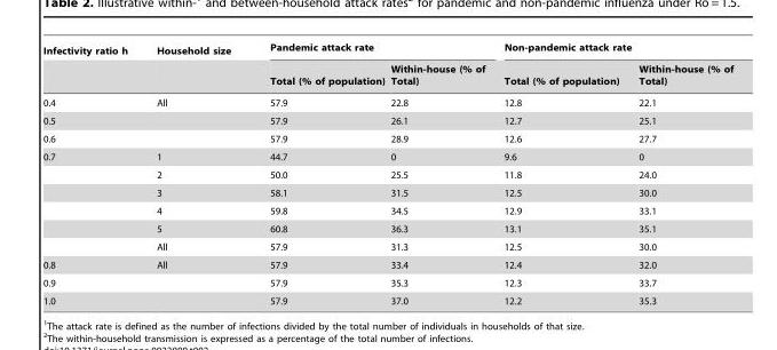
<table><thead><tr><td rowspan="2">Infectivity ratio h</td><td rowspan="2">Household size</td><td colspan="2">Pandemic attack rate</td><td colspan="2">Non-pandemic attack rate</td></tr><tr><td>Total (% of population)</td><td>Within-house (% of Total)</td><td>Total (% of population)</td><td>Within-house (% of Total)</td></tr></thead><tbody><tr><td>0.4</td><td>All</td><td>57.9</td><td>22.8</td><td>12.8</td><td>22.1</td></tr><tr><td>0.5</td><td></td><td>57.9</td><td>26.1</td><td>12.7</td><td>25.1</td></tr><tr><td>0.6</td><td></td><td>57.9</td><td>28.9</td><td>12.6</td><td>27.7</td></tr><tr><td rowspan="6">0.7</td><td>1</td><td>44.7</td><td>0</td><td>9.6</td><td>0</td></tr><tr><td>2</td><td>50.0</td><td>25.5</td><td>11.8</td><td>24.0</td></tr><tr><td>3</td><td>58.1</td><td>31.5</td><td>12.5</td><td>30.0</td></tr><tr><td>4</td><td>59.8</td><td>34.5</td><td>12.9</td><td>33.1</td></tr><tr><td>5</td><td>60.8</td><td>36.3</td><td>13.1</td><td>35.1</td></tr><tr><td>All</td><td>57.9</td><td>31.3</td><td>12.5</td><td>30.0</td></tr><tr><td>0.8</td><td>All</td><td>57.9</td><td>33.4</td><td>12.4</td><td>32.0</td></tr><tr><td>0.9</td><td></td><td>57.9</td><td>35.3</td><td>12.3</td><td>33.7</td></tr><tr><td>1.0</td><td></td><td>57.9</td><td>37.0</td><td>12.2</td><td>35.3</td></tr></tbody></table>